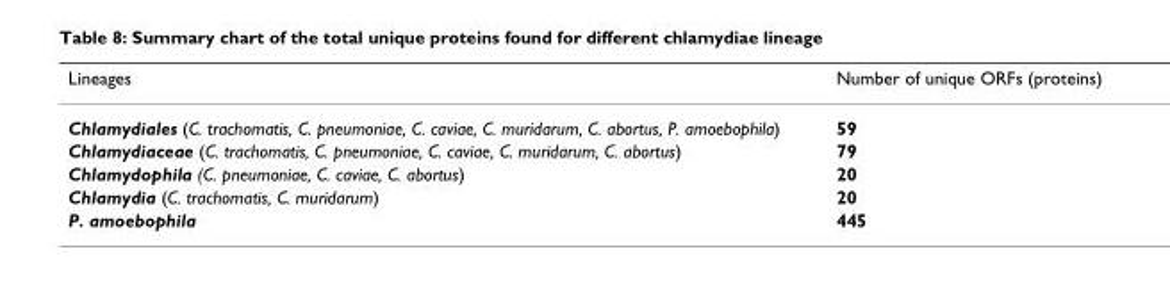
<table><thead><tr><td>Lineages</td><td>Number of unique ORFs (proteins)</td></tr></thead><tbody><tr><td>Chlamydiales (C. trachomatis, C. pneumoniae, C. caviae, C. muridarum, C. abortus, P. amoebophila)</td><td>59</td></tr><tr><td>Chlamydiaceae (C. trachomatis, C. pneumoniae, C. caviae, C. muridarum, C. abortus)</td><td>79</td></tr><tr><td>Chlamydophila (C. pneumoniae, C. caviae, C. abortus)</td><td>20</td></tr><tr><td>Chlamydia (C. trachomatis, C. muridarum)</td><td>20</td></tr><tr><td>P. amoebophila</td><td>445</td></tr></tbody></table>